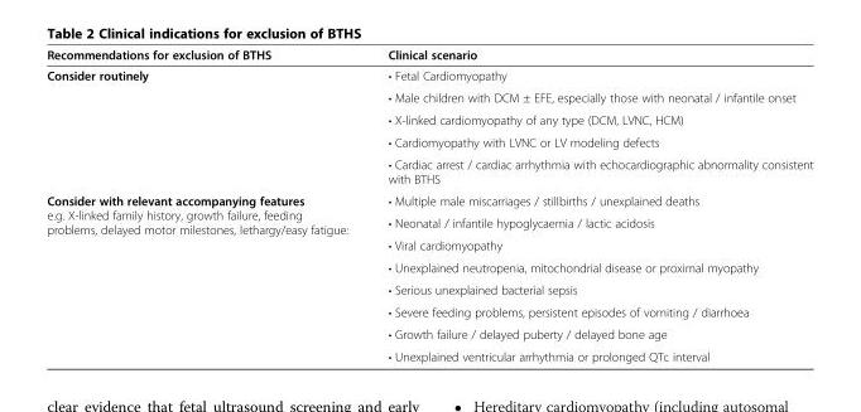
<table><thead><tr><td>Recommendations for exclusion of BTHS</td><td>Clinical scenario</td></tr></thead><tbody><tr><td rowspan="5">Consider routinely</td><td>• Fetal Cardiomyopathy</td></tr><tr><td>• Male children with DCM ± EFE, especially those with neonatal / infantile onset</td></tr><tr><td>• X-linked cardiomyopathy of any type (DCM, LVNC, HCM)</td></tr><tr><td>• Cardiomyopathy with LVNC or LV modeling defects</td></tr><tr><td>• Cardiac arrest / cardiac arrhythmia with echocardiographic abnormality consistent with BTHS</td></tr><tr><td rowspan="8">Consider with relevant accompanying features e.g. X-linked family history, growth failure, feeding problems, delayed motor milestones, lethargy/easy fatigue:</td><td>• Multiple male miscarriages / stillbirths / unexplained deaths</td></tr><tr><td>• Neonatal / infantile hypoglycaemia / lactic acidosis</td></tr><tr><td>• Viral cardiomyopathy</td></tr><tr><td>• Unexplained neutropenia, mitochondrial disease or proximal myopathy</td></tr><tr><td>• Serious unexplained bacterial sepsis</td></tr><tr><td>• Severe feeding problems, persistent episodes of vomiting / diarrhoea</td></tr><tr><td>• Growth failure / delayed puberty / delayed bone age</td></tr><tr><td>• Unexplained ventricular arrhythmia or prolonged QTc interval</td></tr></tbody></table>